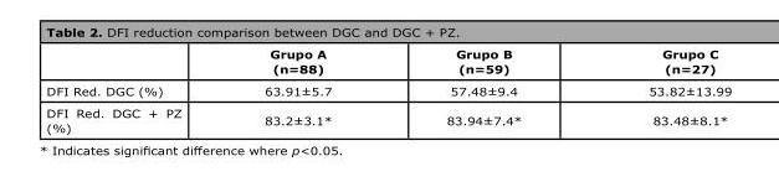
<table><thead><tr><td></td><td>Grupo A (n=88)</td><td>Grupo B (n=59)</td><td>Grupo C (n=27)</td></tr></thead><tbody><tr><td>DFI Red. DGC (%)</td><td>63.91±5.7</td><td>57.48±9.4</td><td>53.82±13.99</td></tr><tr><td>DFI Red. DGC + PZ (%)</td><td>83.2±3.1*</td><td>83.94±7.4*</td><td>83.48±8.1*</td></tr></tbody></table>